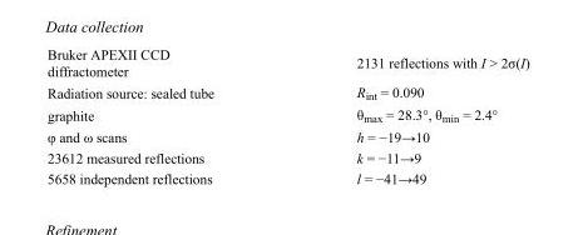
<table><tbody><tr><td>Bruker APEXII CCD diffractometer</td><td>2131 reflections with I &gt; 2σ(I)</td></tr><tr><td>Radiation source: sealed tube</td><td>R<sub>int</sub> = 0.090</td></tr><tr><td>graphite</td><td>θ<sub>max</sub> = 28.3°, θ<sub>min</sub> = 2.4°</td></tr><tr><td>φ and ω scans</td><td>h = −19→10</td></tr><tr><td>23612 measured reflections</td><td>k = −11→9</td></tr><tr><td>5658 independent reflections</td><td>l = −41→49</td></tr></tbody></table>